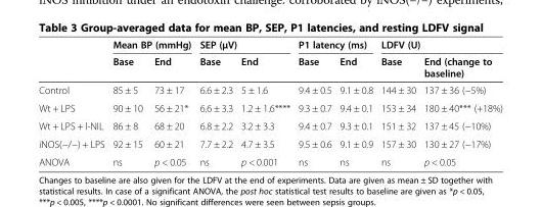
<table><thead><tr><td rowspan="2"></td><td colspan="2">Mean BP (mmHg)</td><td colspan="2">SEP (μV)</td><td colspan="2">P1 latency (ms)</td><td colspan="2">LDFV (U)</td></tr><tr><td>Base</td><td>End</td><td>Base</td><td>End</td><td>Base</td><td>End</td><td>Base</td><td>End (change to baseline)</td></tr></thead><tbody><tr><td>Control</td><td>85 ± 5</td><td>73 ± 17</td><td>6.6 ± 2.3</td><td>5 ± 1.6</td><td>9.4 ± 0.5</td><td>9.1 ± 0.8</td><td>144 ± 30</td><td>137 ± 36 (−5%)</td></tr><tr><td>Wt + LPS</td><td>90 ± 10</td><td>56 ± 21*</td><td>6.6 ± 3.3</td><td>1.2 ± 1.6****</td><td>9.3 ± 0.7</td><td>9.4 ± 0.1</td><td>153 ± 34</td><td>180 ± 40*** (+18%)</td></tr><tr><td>Wt + LPS + l-NIL</td><td>86 ± 8</td><td>68 ± 20</td><td>6.8 ± 2.2</td><td>3.2 ± 3.3</td><td>9.4 ± 0.7</td><td>9.3 ± 0.1</td><td>151 ± 32</td><td>137 ± 45 (−10%)</td></tr><tr><td>iNOS(−/−) + LPS</td><td>92 ± 15</td><td>60 ± 21</td><td>7.7 ± 2.2</td><td>4.7 ± 3.5</td><td>9.5 ± 0.6</td><td>9.1 ± 0.9</td><td>157 ± 30</td><td>130 ± 27 (−17%)</td></tr><tr><td>ANOVA</td><td>ns</td><td>p &lt; 0.05</td><td>ns</td><td>p &lt; 0.001</td><td>ns</td><td>ns</td><td>ns</td><td>p &lt; 0.05</td></tr></tbody></table>